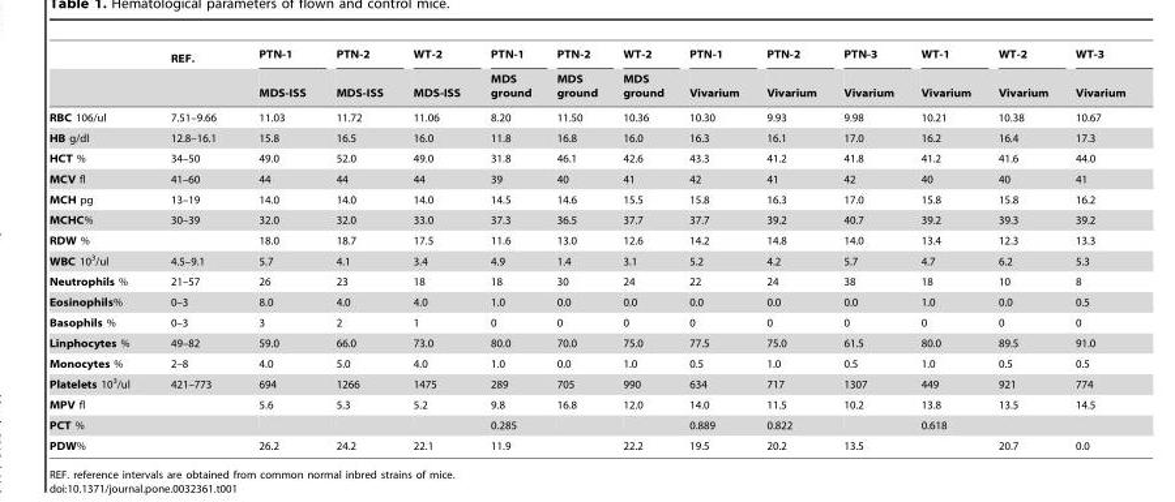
<table><thead><tr><td rowspan="2"></td><td rowspan="2">REF.</td><td rowspan="2">PTN-1 MDS-ISS</td><td rowspan="2">PTN-2 MDS-ISS</td><td rowspan="2">WT-2 MDS-ISS</td><td rowspan="2">PTN-1 MDS ground</td><td rowspan="2">PTN-2 MDS ground</td><td rowspan="2">WT-2 MDS ground</td><td rowspan="2">PTN-1 Vivarium</td><td rowspan="2">PTN-2 Vivarium</td><td rowspan="2">PTN-3 Vivarium</td><td rowspan="2">WT-1 Vivarium</td><td rowspan="2">WT-2 Vivarium</td><td rowspan="2">WT-3 Vivarium</td></tr><tr></tr></thead><tbody><tr><td>RBC 106/ul</td><td>7.51–9.66</td><td>11.03</td><td>11.72</td><td>11.06</td><td>8.20</td><td>11.50</td><td>10.36</td><td>10.30</td><td>9.93</td><td>9.98</td><td>10.21</td><td>10.38</td><td>10.67</td></tr><tr><td>HB g/dl</td><td>12.8–16.1</td><td>15.8</td><td>16.5</td><td>16.0</td><td>11.8</td><td>16.8</td><td>16.0</td><td>16.3</td><td>16.1</td><td>17.0</td><td>16.2</td><td>16.4</td><td>17.3</td></tr><tr><td>HCT %</td><td>34–50</td><td>49.0</td><td>52.0</td><td>49.0</td><td>31.8</td><td>46.1</td><td>42.6</td><td>43.3</td><td>41.2</td><td>41.8</td><td>41.2</td><td>41.6</td><td>44.0</td></tr><tr><td>MCV fl</td><td>41–60</td><td>44</td><td>44</td><td>44</td><td>39</td><td>40</td><td>41</td><td>42</td><td>41</td><td>42</td><td>40</td><td>40</td><td>41</td></tr><tr><td>MCH pg</td><td>13–19</td><td>14.0</td><td>14.0</td><td>14.0</td><td>14.5</td><td>14.6</td><td>15.5</td><td>15.8</td><td>16.3</td><td>17.0</td><td>15.8</td><td>15.8</td><td>16.2</td></tr><tr><td>MCHC%</td><td>30–39</td><td>32.0</td><td>32.0</td><td>33.0</td><td>37.3</td><td>36.5</td><td>37.7</td><td>37.7</td><td>39.2</td><td>40.7</td><td>39.2</td><td>39.3</td><td>39.2</td></tr><tr><td>RDW %</td><td></td><td>18.0</td><td>18.7</td><td>17.5</td><td>11.6</td><td>13.0</td><td>12.6</td><td>14.2</td><td>14.8</td><td>14.0</td><td>13.4</td><td>12.3</td><td>13.3</td></tr><tr><td>WBC 10<sup>3</sup>/ul</td><td>4.5–9.1</td><td>5.7</td><td>4.1</td><td>3.4</td><td>4.9</td><td>1.4</td><td>3.1</td><td>5.2</td><td>4.2</td><td>5.7</td><td>4.7</td><td>6.2</td><td>5.3</td></tr><tr><td>Neutrophils %</td><td>21–57</td><td>26</td><td>23</td><td>18</td><td>18</td><td>30</td><td>24</td><td>22</td><td>24</td><td>38</td><td>18</td><td>10</td><td>8</td></tr><tr><td>Eosinophils%</td><td>0–3</td><td>8.0</td><td>4.0</td><td>4.0</td><td>1.0</td><td>0.0</td><td>0.0</td><td>0.0</td><td>0.0</td><td>0.0</td><td>1.0</td><td>0.0</td><td>0.5</td></tr><tr><td>Basophils %</td><td>0–3</td><td>3</td><td>2</td><td>1</td><td>0</td><td>0</td><td>0</td><td>0</td><td>0</td><td>0</td><td>0</td><td>0</td><td>0</td></tr><tr><td>Linphocytes %</td><td>49–82</td><td>59.0</td><td>66.0</td><td>73.0</td><td>80.0</td><td>70.0</td><td>75.0</td><td>77.5</td><td>75.0</td><td>61.5</td><td>80.0</td><td>89.5</td><td>91.0</td></tr><tr><td>Monocytes %</td><td>2–8</td><td>4.0</td><td>5.0</td><td>4.0</td><td>1.0</td><td>0.0</td><td>1.0</td><td>0.5</td><td>1.0</td><td>0.5</td><td>1.0</td><td>0.5</td><td>0.5</td></tr><tr><td>Platelets 10<sup>3</sup>/ul</td><td>421–773</td><td>694</td><td>1266</td><td>1475</td><td>289</td><td>705</td><td>990</td><td>634</td><td>717</td><td>1307</td><td>449</td><td>921</td><td>774</td></tr><tr><td>MPV fl</td><td></td><td>5.6</td><td>5.3</td><td>5.2</td><td>9.8</td><td>16.8</td><td>12.0</td><td>14.0</td><td>11.5</td><td>10.2</td><td>13.8</td><td>13.5</td><td>14.5</td></tr><tr><td>PCT %</td><td></td><td></td><td></td><td></td><td>0.285</td><td></td><td></td><td>0.889</td><td>0.822</td><td></td><td>0.618</td><td></td><td></td></tr><tr><td>PDW%</td><td></td><td>26.2</td><td>24.2</td><td>22.1</td><td>11.9</td><td></td><td>22.2</td><td>19.5</td><td>20.2</td><td>13.5</td><td></td><td>20.7</td><td>0.0</td></tr></tbody></table>